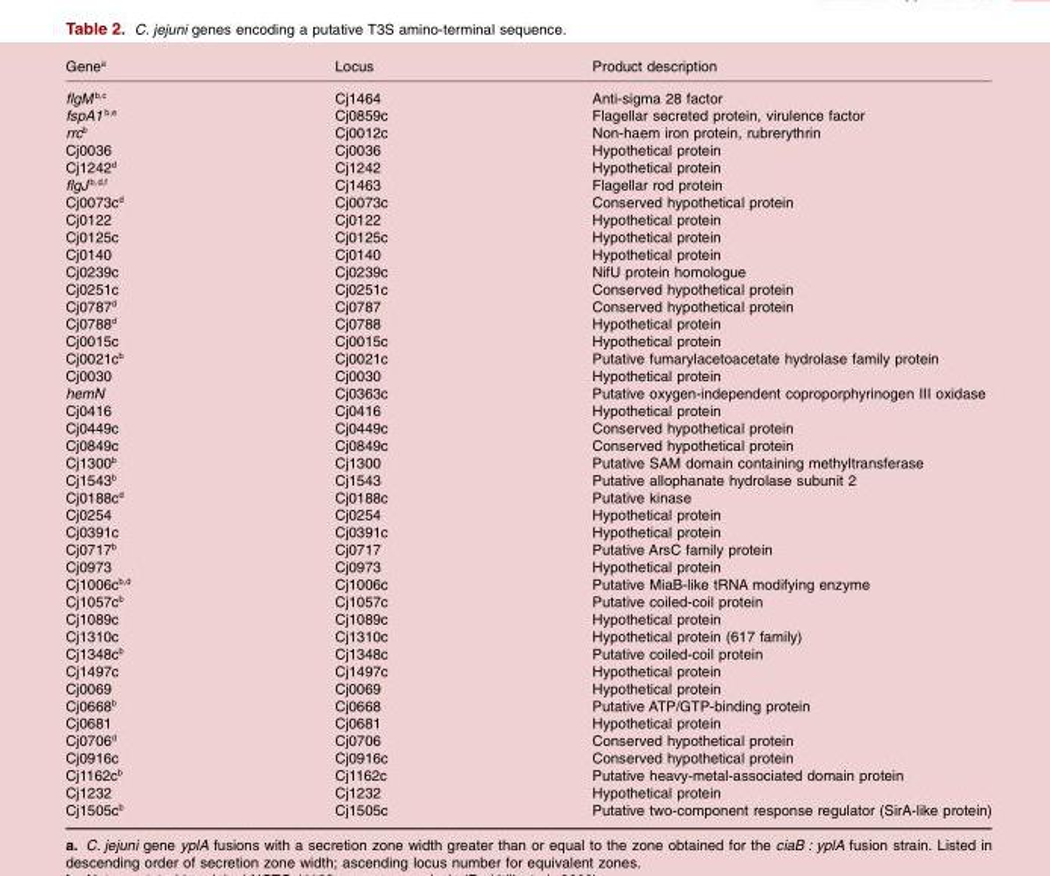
<table><thead><tr><td>Gene<sup>a</sup></td><td>Locus</td><td>Product description</td></tr></thead><tbody><tr><td>flgM <sup>b,c</sup></td><td>Cj1464</td><td>Anti-sigma 28 factor</td></tr><tr><td>fspA1 <sup>b,e</sup></td><td>Cj0859c</td><td>Flagellar secreted protein, virulence factor</td></tr><tr><td>rrc<sup>b</sup></td><td>Cj0012c</td><td>Non-haem iron protein, rubrerythrin</td></tr><tr><td>Cj0036</td><td>Cj0036</td><td>Hypothetical protein</td></tr><tr><td>Cj1242<sup>d</sup></td><td>Cj1242</td><td>Hypothetical protein</td></tr><tr><td>flgJ <sup>b,d,f</sup></td><td>Cj1463</td><td>Flagellar rod protein</td></tr><tr><td>Cj0073c<sup>d</sup></td><td>Cj0073c</td><td>Conserved hypothetical protein</td></tr><tr><td>Cj0122</td><td>Cj0122</td><td>Hypothetical protein</td></tr><tr><td>Cj0125c</td><td>Cj0125c</td><td>Hypothetical protein</td></tr><tr><td>Cj0140</td><td>Cj0140</td><td>Hypothetical protein</td></tr><tr><td>Cj0239c</td><td>Cj0239c</td><td>NifU protein homologue</td></tr><tr><td>Cj0251c</td><td>Cj0251c</td><td>Conserved hypothetical protein</td></tr><tr><td>Cj0787<sup>d</sup></td><td>Cj0787</td><td>Conserved hypothetical protein</td></tr><tr><td>Cj0788<sup>d</sup></td><td>Cj0788</td><td>Hypothetical protein</td></tr><tr><td>Cj0015c</td><td>Cj0015c</td><td>Hypothetical protein</td></tr><tr><td>Cj0021c<sup>b</sup></td><td>Cj0021c</td><td>Putative fumarylacetoacetate hydrolase family protein</td></tr><tr><td>Cj0030</td><td>Cj0030</td><td>Hypothetical protein</td></tr><tr><td>hemN</td><td>Cj0363c</td><td>Putative oxygen-independent coproporphyrinogen III oxidase</td></tr><tr><td>Cj0416</td><td>Cj0416</td><td>Hypothetical protein</td></tr><tr><td>Cj0449c</td><td>Cj0449c</td><td>Conserved hypothetical protein</td></tr><tr><td>Cj0849c</td><td>Cj0849c</td><td>Conserved hypothetical protein</td></tr><tr><td>Cj1300<sup>b</sup></td><td>Cj1300</td><td>Putative SAM domain containing methyltransferase</td></tr><tr><td>Cj1543<sup>b</sup></td><td>Cj1543</td><td>Putative allophanate hydrolase subunit 2</td></tr><tr><td>Cj0188c<sup>d</sup></td><td>Cj0188c</td><td>Putative kinase</td></tr><tr><td>Cj0254</td><td>Cj0254</td><td>Hypothetical protein</td></tr><tr><td>Cj0391c</td><td>Cj0391c</td><td>Hypothetical protein</td></tr><tr><td>Cj0717<sup>b</sup></td><td>Cj0717</td><td>Putative ArsC family protein</td></tr><tr><td>Cj0973</td><td>Cj0973</td><td>Hypothetical protein</td></tr><tr><td>Cj1006c<sup>b,d</sup></td><td>Cj1006c</td><td>Putative MiaB-like tRNA modifying enzyme</td></tr><tr><td>Cj1057c<sup>b</sup></td><td>Cj1057c</td><td>Putative coiled-coil protein</td></tr><tr><td>Cj1089c</td><td>Cj1089c</td><td>Hypothetical protein</td></tr><tr><td>Cj1310c</td><td>Cj1310c</td><td>Hypothetical protein (617 family)</td></tr><tr><td>Cj1348c<sup>b</sup></td><td>Cj1348c</td><td>Putative coiled-coil protein</td></tr><tr><td>Cj1497c</td><td>Cj1497c</td><td>Hypothetical protein</td></tr><tr><td>Cj0069</td><td>Cj0069</td><td>Hypothetical protein</td></tr><tr><td>Cj0668<sup>b</sup></td><td>Cj0668</td><td>Putative ATP/GTP-binding protein</td></tr><tr><td>Cj0681</td><td>Cj0681</td><td>Hypothetical protein</td></tr><tr><td>Cj0706<sup>d</sup></td><td>Cj0706</td><td>Conserved hypothetical protein</td></tr><tr><td>Cj0916c</td><td>Cj0916c</td><td>Conserved hypothetical protein</td></tr><tr><td>Cj1162c<sup>b</sup></td><td>Cj1162c</td><td>Putative heavy-metal-associated domain protein</td></tr><tr><td>Cj1232</td><td>Cj1232</td><td>Hypothetical protein</td></tr><tr><td>Cj1505c<sup>b</sup></td><td>Cj1505c</td><td>Putative two-component response regulator (SirA-like protein)</td></tr></tbody></table>